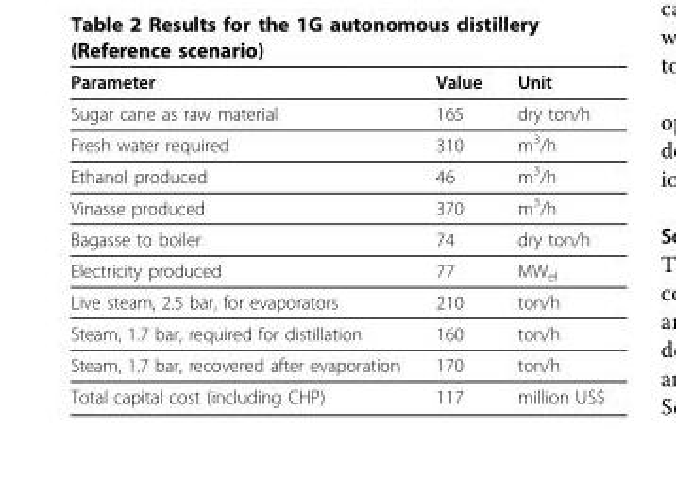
<table><thead><tr><td>Parameter</td><td>Value</td><td>Unit</td></tr></thead><tbody><tr><td>Sugar cane as raw material</td><td>165</td><td>dry ton/h</td></tr><tr><td>Fresh water required</td><td>310</td><td>m<sup>3</sup>/h</td></tr><tr><td>Ethanol produced</td><td>46</td><td>m<sup>3</sup>/h</td></tr><tr><td>Vinasse produced</td><td>370</td><td>m<sup>3</sup>/h</td></tr><tr><td>Bagasse to boiler</td><td>74</td><td>dry ton/h</td></tr><tr><td>Electricity produced</td><td>77</td><td>MW<sub>el</sub></td></tr><tr><td>Live steam, 2.5 bar, for evaporators</td><td>210</td><td>ton/h</td></tr><tr><td>Steam, 1.7 bar, required for distillation</td><td>160</td><td>ton/h</td></tr><tr><td>Steam, 1.7 bar, recovered after evaporation</td><td>170</td><td>ton/h</td></tr><tr><td>Total capital cost (including CHP)</td><td>117</td><td>million US$</td></tr></tbody></table>